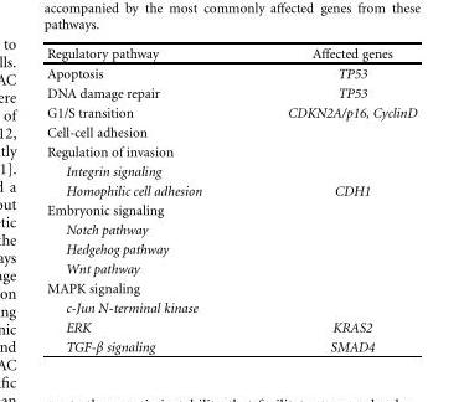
<table><thead><tr><td>Regulatory pathway</td><td>Affected genes</td></tr></thead><tbody><tr><td>Apoptosis</td><td>TP53</td></tr><tr><td>DNA damage repair</td><td>TP53</td></tr><tr><td>G1/S transition</td><td>CDKN2A/p16, CyclinD</td></tr><tr><td colspan="2">Cell-cell adhesion</td></tr><tr><td colspan="2">Regulation of invasion</td></tr><tr><td colspan="2">Integrin signaling</td></tr><tr><td>Homophilic cell adhesion</td><td>CDH1</td></tr><tr><td colspan="2">Embryonic signaling</td></tr><tr><td colspan="2">Notch pathway</td></tr><tr><td colspan="2">Hedgehog pathway</td></tr><tr><td colspan="2">Wnt pathway</td></tr><tr><td colspan="2">MAPK signaling</td></tr><tr><td colspan="2">c-Jun N-terminal kinase</td></tr><tr><td>ERK</td><td>KRAS2</td></tr><tr><td>TGF-β signaling</td><td>SMAD4</td></tr></tbody></table>